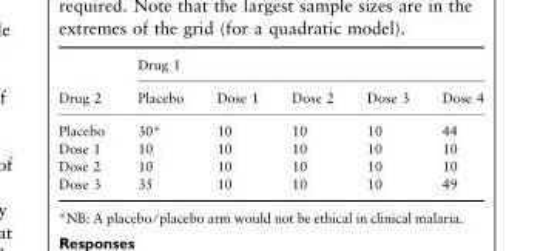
<table><thead><tr><td rowspan="2">Drug 2</td><td colspan="5">Drug 1</td></tr><tr><td>Placebo</td><td>Dose 1</td><td>Dose 2</td><td>Dose 3</td><td>Dose 4</td></tr></thead><tbody><tr><td>Placebo</td><td>30*</td><td>10</td><td>10</td><td>10</td><td>44</td></tr><tr><td>Dose 1</td><td>10</td><td>10</td><td>10</td><td>10</td><td>10</td></tr><tr><td>Dose 2</td><td>10</td><td>10</td><td>10</td><td>10</td><td>10</td></tr><tr><td>Dose 3</td><td>35</td><td>10</td><td>10</td><td>10</td><td>49</td></tr></tbody></table>